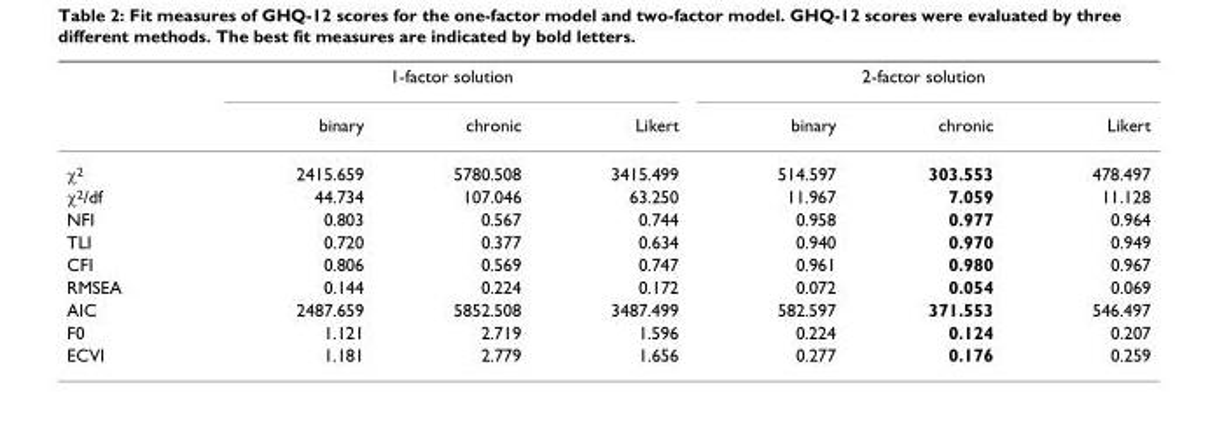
<table><thead><tr><td rowspan="2"></td><td colspan="3">1-factor solution</td><td colspan="3">2-factor solution</td></tr><tr><td>binary</td><td>chronic</td><td>Likert</td><td>binary</td><td>chronic</td><td>Likert</td></tr></thead><tbody><tr><td>χ<sup>2</sup></td><td>2415.659</td><td>5780.508</td><td>3415.499</td><td>514.597</td><td>303.553</td><td>478.497</td></tr><tr><td>χ<sup>2</sup>/df</td><td>44.734</td><td>107.046</td><td>63.250</td><td>11.967</td><td>7.059</td><td>11.128</td></tr><tr><td>NFI</td><td>0.803</td><td>0.567</td><td>0.744</td><td>0.958</td><td>0.977</td><td>0.964</td></tr><tr><td>TLI</td><td>0.720</td><td>0.377</td><td>0.634</td><td>0.940</td><td>0.970</td><td>0.949</td></tr><tr><td>CFI</td><td>0.806</td><td>0.569</td><td>0.747</td><td>0.961</td><td>0.980</td><td>0.967</td></tr><tr><td>RMSEA</td><td>0.144</td><td>0.224</td><td>0.172</td><td>0.072</td><td>0.054</td><td>0.069</td></tr><tr><td>AIC</td><td>2487.659</td><td>5852.508</td><td>3487.499</td><td>582.597</td><td>371.553</td><td>546.497</td></tr><tr><td>F0</td><td>1.121</td><td>2.719</td><td>1.596</td><td>0.224</td><td>0.124</td><td>0.207</td></tr><tr><td>ECVI</td><td>1.181</td><td>2.779</td><td>1.656</td><td>0.277</td><td>0.176</td><td>0.259</td></tr></tbody></table>